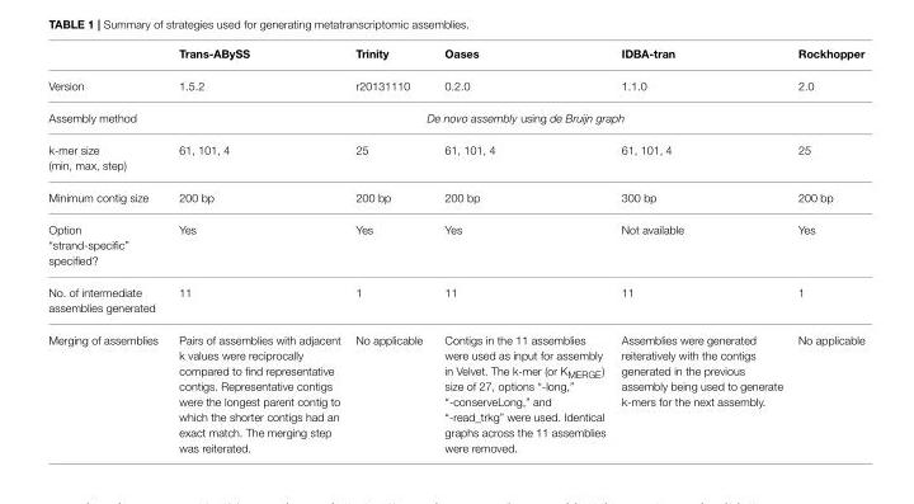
<table><thead><tr><td></td><td>Trans-ABySS</td><td>Trinity</td><td>Oases</td><td>IDBA-tran</td><td>Rockhopper</td></tr></thead><tbody><tr><td>Version</td><td>1.5.2</td><td>r20131110</td><td>0.2.0</td><td>1.1.0</td><td>2.0</td></tr><tr><td>Assembly method</td><td colspan="5">De novo assembly using de Bruijn graph</td></tr><tr><td>k-mer size (min, max, step)</td><td>61, 101, 4</td><td>25</td><td>61, 101, 4</td><td>61, 101, 4</td><td>25</td></tr><tr><td>Minimum contig size</td><td>200 bp</td><td>200 bp</td><td>200 bp</td><td>300 bp</td><td>200 bp</td></tr><tr><td>Option “strand-specific” specified?</td><td>Yes</td><td>Yes</td><td>Yes</td><td>Not available</td><td>Yes</td></tr><tr><td>No. of intermediate assemblies generated</td><td>11</td><td>1</td><td>11</td><td>11</td><td>1</td></tr><tr><td>Merging of assemblies</td><td>Pairs of assemblies with adjacent k values were reciprocally compared to find representative contigs. Representative contigs were the longest parent contig to which the shorter contigs had an exact match. The merging step was reiterated.</td><td>No applicable</td><td>Contigs in the 11 assemblies were used as input for assembly in Velvet. The k-mer (or K<sub>MERGE</sub>) size of 27, options “-long,” “-conserveLong,” and “-read_trkg” were used. Identical graphs across the 11 assemblies were removed.</td><td>Assemblies were generated reiteratively with the contigs generated in the previous assembly being used to generate k-mers for the next assembly.</td><td>No applicable</td></tr></tbody></table>